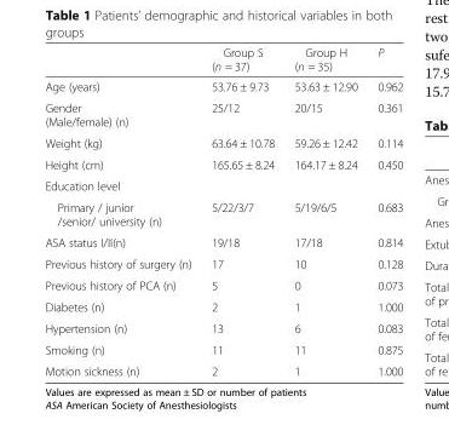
<table><thead><tr><td></td><td>Group S (n = 37)</td><td>Group H (n = 35)</td><td>P</td></tr></thead><tbody><tr><td>Age (years)</td><td>53.76 ± 9.73</td><td>53.63 ± 12.90</td><td>0.962</td></tr><tr><td>Gender (Male/female) (n)</td><td>25/12</td><td>20/15</td><td>0.361</td></tr><tr><td>Weight (kg)</td><td>63.64 ± 10.78</td><td>59.26 ± 12.42</td><td>0.114</td></tr><tr><td>Height (cm)</td><td>165.65 ± 8.24</td><td>164.17 ± 8.24</td><td>0.450</td></tr><tr><td colspan="4">Education level</td></tr><tr><td>Primary / junior /senior/ university (n)</td><td>5/22/3/7</td><td>5/19/6/5</td><td>0.683</td></tr><tr><td>ASA status I/II(n)</td><td>19/18</td><td>17/18</td><td>0.814</td></tr><tr><td>Previous history of surgery (n)</td><td>17</td><td>10</td><td>0.128</td></tr><tr><td>Previous history of PCA (n)</td><td>5</td><td>0</td><td>0.073</td></tr><tr><td>Diabetes (n)</td><td>2</td><td>1</td><td>1.000</td></tr><tr><td>Hypertension (n)</td><td>13</td><td>6</td><td>0.083</td></tr><tr><td>Smoking (n)</td><td>11</td><td>11</td><td>0.875</td></tr><tr><td>Motion sickness (n)</td><td>2</td><td>1</td><td>1.000</td></tr></tbody></table>